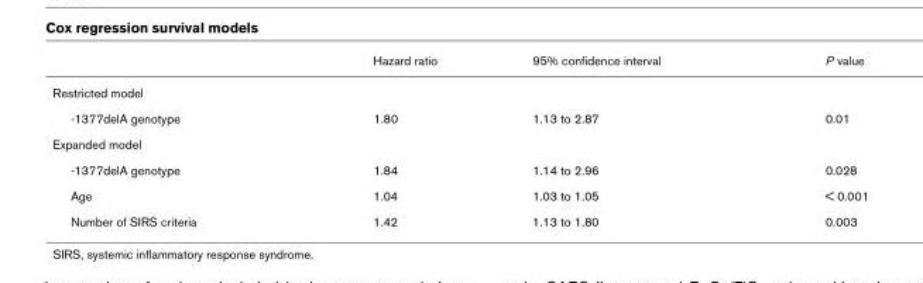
<table><thead><tr><td></td><td>Hazard ratio</td><td>95% confidence interval</td><td>P value</td></tr></thead><tbody><tr><td colspan="4">Restricted model</td></tr><tr><td>-1377delA genotype</td><td>1.80</td><td>1.13 to 2.87</td><td>0.01</td></tr><tr><td colspan="4">Expanded model</td></tr><tr><td>-1377delA genotype</td><td>1.84</td><td>1.14 to 2.96</td><td>0.028</td></tr><tr><td>Age</td><td>1.04</td><td>1.03 to 1.05</td><td>&lt; 0.001</td></tr><tr><td>Number of SIRS criteria</td><td>1.42</td><td>1.13 to 1.80</td><td>0.003</td></tr></tbody></table>